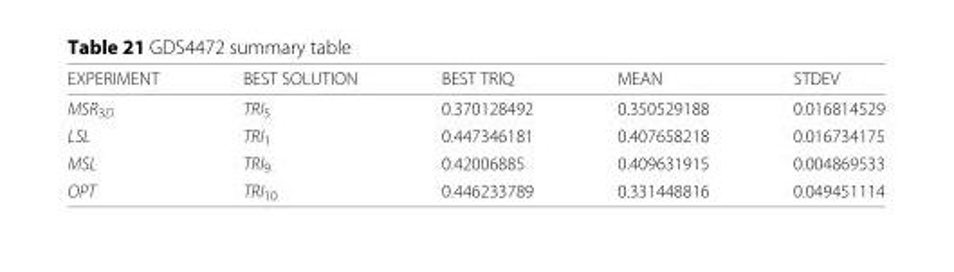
<table><thead><tr><td>EXPERIMENT</td><td>BEST SOLUTION</td><td>BEST TRIQ</td><td>MEAN</td><td>STDEV</td></tr></thead><tbody><tr><td>MSR<sub>3D</sub></td><td>TRI<sub>5</sub></td><td>0.370128492</td><td>0.350529188</td><td>0.016814529</td></tr><tr><td>LSL</td><td>TRI<sub>1</sub></td><td>0.447346181</td><td>0.407658218</td><td>0.016734175</td></tr><tr><td>MSL</td><td>TRI<sub>9</sub></td><td>0.42006885</td><td>0.409631915</td><td>0.004869533</td></tr><tr><td>OPT</td><td>TRI<sub>10</sub></td><td>0.446233789</td><td>0.331448816</td><td>0.049451114</td></tr></tbody></table>